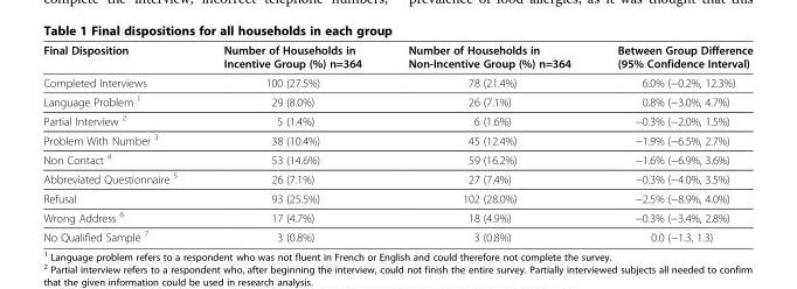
<table><thead><tr><td>Final Disposition</td><td>Number of Households in Incentive Group (%) n=364</td><td>Number of Households in Non-Incentive Group (%) n=364</td><td>Between Group Difference (95% Confidence Interval)</td></tr></thead><tbody><tr><td>Completed Interviews</td><td>100 (27.5%)</td><td>78 (21.4%)</td><td>6.0% (−0.2%, 12.3%)</td></tr><tr><td>Language Problem <sup>1</sup></td><td>29 (8.0%)</td><td>26 (7.1%)</td><td>0.8% (−3.0%, 4.7%)</td></tr><tr><td>Partial Interview <sup>2</sup></td><td>5 (1.4%)</td><td>6 (1.6%)</td><td>−0.3% (−2.0%, 1.5%)</td></tr><tr><td>Problem With Number <sup>3</sup></td><td>38 (10.4%)</td><td>45 (12.4%)</td><td>−1.9% (−6.5%, 2.7%)</td></tr><tr><td>Non Contact <sup>4</sup></td><td>53 (14.6%)</td><td>59 (16.2%)</td><td>−1.6% (−6.9%, 3.6%)</td></tr><tr><td>Abbreviated Questionnaire <sup>5</sup></td><td>26 (7.1%)</td><td>27 (7.4%)</td><td>−0.3% (−4.0%, 3.5%)</td></tr><tr><td>Refusal</td><td>93 (25.5%)</td><td>102 (28.0%)</td><td>−2.5% (−8.9%, 4.0%)</td></tr><tr><td>Wrong Address <sup>6</sup></td><td>17 (4.7%)</td><td>18 (4.9%)</td><td>−0.3% (−3.4%, 2.8%)</td></tr><tr><td>No Qualified Sample <sup>7</sup></td><td>3 (0.8%)</td><td>3 (0.8%)</td><td>0.0 (−1.3, 1.3)</td></tr></tbody></table>